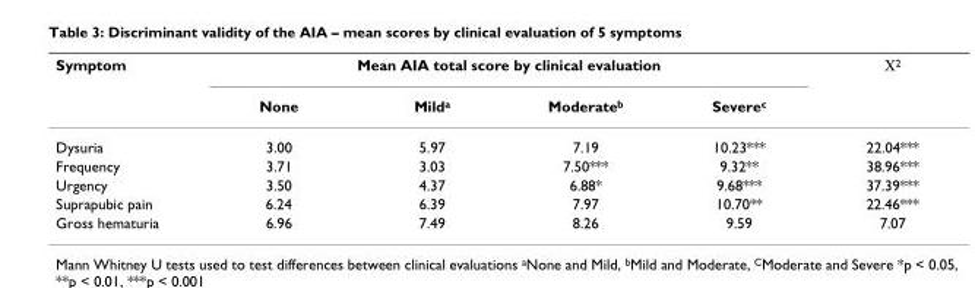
<table><thead><tr><td rowspan="2">Symptom</td><td colspan="4">Mean AIA total score by clinical evaluation</td><td rowspan="2">Χ<sup>2</sup></td></tr><tr><td>None</td><td>Mild<sup>a</sup></td><td>Moderate<sup>b</sup></td><td>Severe<sup>c</sup></td></tr></thead><tbody><tr><td>Dysuria</td><td>3.00</td><td>5.97</td><td>7.19</td><td>10.23***</td><td>22.04***</td></tr><tr><td>Frequency</td><td>3.71</td><td>3.03</td><td>7.50***</td><td>9.32**</td><td>38.96***</td></tr><tr><td>Urgency</td><td>3.50</td><td>4.37</td><td>6.88*</td><td>9.68***</td><td>37.39***</td></tr><tr><td>Suprapubic pain</td><td>6.24</td><td>6.39</td><td>7.97</td><td>10.70**</td><td>22.46***</td></tr><tr><td>Gross hematuria</td><td>6.96</td><td>7.49</td><td>8.26</td><td>9.59</td><td>7.07</td></tr></tbody></table>